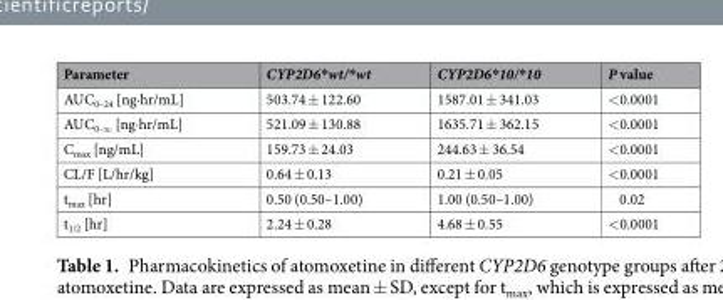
<table><thead><tr><td>Parameter</td><td>CYP2D6*wt/*wt</td><td>CYP2D6*10/*10</td><td>P value</td></tr></thead><tbody><tr><td>AUC<sub>0–24</sub> [ng·hr/mL]</td><td>503.74 ± 122.60</td><td>1587.01 ± 341.03</td><td>&lt;0.0001</td></tr><tr><td>AUC<sub>0-∞</sub> [ng·hr/mL]</td><td>521.09 ± 130.88</td><td>1635.71 ± 362.15</td><td>&lt;0.0001</td></tr><tr><td>C<sub>max</sub> [ng/mL]</td><td>159.73 ± 24.03</td><td>244.63 ± 36.54</td><td>&lt;0.0001</td></tr><tr><td>CL/F [L/hr/kg]</td><td>0.64 ± 0.13</td><td>0.21 ± 0.05</td><td>&lt;0.0001</td></tr><tr><td>t<sub>max</sub> [hr]</td><td>0.50 (0.50–1.00)</td><td>1.00 (0.50–1.00)</td><td>0.02</td></tr><tr><td>t<sub>1/2</sub> [hr]</td><td>2.24 ± 0.28</td><td>4.68 ± 0.55</td><td>&lt;0.0001</td></tr></tbody></table>